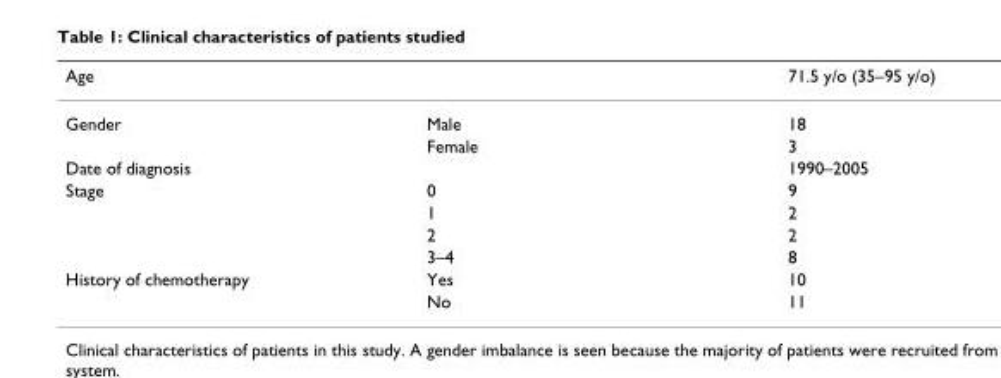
<table><thead><tr><td>Age</td><td></td><td>71.5 y/o (35–95 y/o)</td></tr></thead><tbody><tr><td rowspan="2">Gender</td><td>Male</td><td>18</td></tr><tr><td>Female</td><td>3</td></tr><tr><td>Date of diagnosis</td><td></td><td>1990–2005</td></tr><tr><td rowspan="4">Stage</td><td>0</td><td>9</td></tr><tr><td>1</td><td>2</td></tr><tr><td>2</td><td>2</td></tr><tr><td>3–4</td><td>8</td></tr><tr><td rowspan="2">History of chemotherapy</td><td>Yes</td><td>10</td></tr><tr><td>No</td><td>11</td></tr></tbody></table>